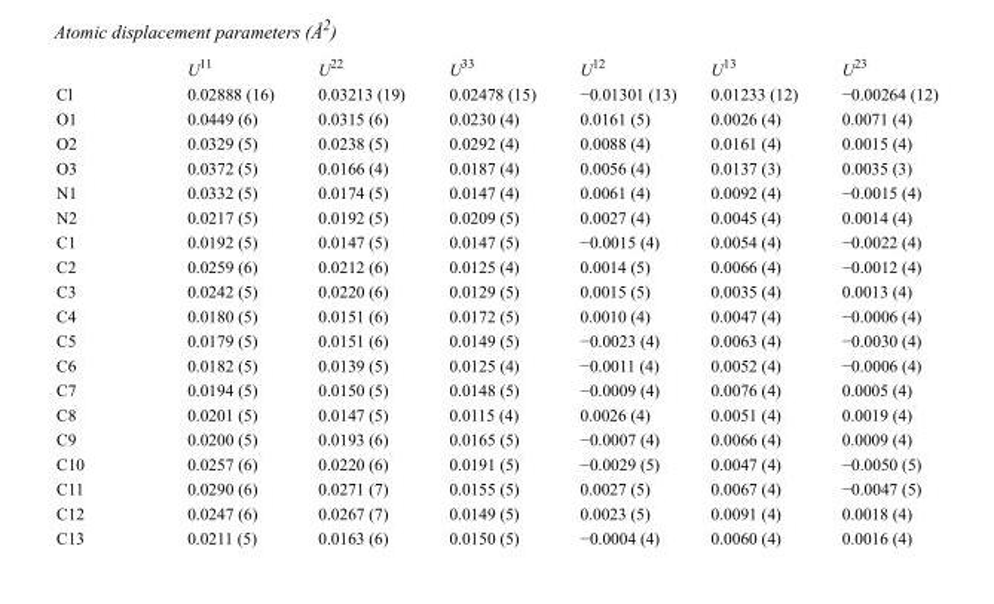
<table><thead><tr><td></td><td>U<sup>11</sup></td><td>U<sup>22</sup></td><td>U<sup>33</sup></td><td>U<sup>12</sup></td><td>U<sup>13</sup></td><td>U<sup>23</sup></td></tr></thead><tbody><tr><td>Cl</td><td>0.02888 (16)</td><td>0.03213 (19)</td><td>0.02478 (15)</td><td>−0.01301 (13)</td><td>0.01233 (12)</td><td>−0.00264 (12)</td></tr><tr><td>O1</td><td>0.0449 (6)</td><td>0.0315 (6)</td><td>0.0230 (4)</td><td>0.0161 (5)</td><td>0.0026 (4)</td><td>0.0071 (4)</td></tr><tr><td>O2</td><td>0.0329 (5)</td><td>0.0238 (5)</td><td>0.0292 (4)</td><td>0.0088 (4)</td><td>0.0161 (4)</td><td>0.0015 (4)</td></tr><tr><td>O3</td><td>0.0372 (5)</td><td>0.0166 (4)</td><td>0.0187 (4)</td><td>0.0056 (4)</td><td>0.0137 (3)</td><td>0.0035 (3)</td></tr><tr><td>N1</td><td>0.0332 (5)</td><td>0.0174 (5)</td><td>0.0147 (4)</td><td>0.0061 (4)</td><td>0.0092 (4)</td><td>−0.0015 (4)</td></tr><tr><td>N2</td><td>0.0217 (5)</td><td>0.0192 (5)</td><td>0.0209 (5)</td><td>0.0027 (4)</td><td>0.0045 (4)</td><td>0.0014 (4)</td></tr><tr><td>C1</td><td>0.0192 (5)</td><td>0.0147 (5)</td><td>0.0147 (5)</td><td>−0.0015 (4)</td><td>0.0054 (4)</td><td>−0.0022 (4)</td></tr><tr><td>C2</td><td>0.0259 (6)</td><td>0.0212 (6)</td><td>0.0125 (4)</td><td>0.0014 (5)</td><td>0.0066 (4)</td><td>−0.0012 (4)</td></tr><tr><td>C3</td><td>0.0242 (5)</td><td>0.0220 (6)</td><td>0.0129 (5)</td><td>0.0015 (5)</td><td>0.0035 (4)</td><td>0.0013 (4)</td></tr><tr><td>C4</td><td>0.0180 (5)</td><td>0.0151 (6)</td><td>0.0172 (5)</td><td>0.0010 (4)</td><td>0.0047 (4)</td><td>−0.0006 (4)</td></tr><tr><td>C5</td><td>0.0179 (5)</td><td>0.0151 (6)</td><td>0.0149 (5)</td><td>−0.0023 (4)</td><td>0.0063 (4)</td><td>−0.0030 (4)</td></tr><tr><td>C6</td><td>0.0182 (5)</td><td>0.0139 (5)</td><td>0.0125 (4)</td><td>−0.0011 (4)</td><td>0.0052 (4)</td><td>−0.0006 (4)</td></tr><tr><td>C7</td><td>0.0194 (5)</td><td>0.0150 (5)</td><td>0.0148 (5)</td><td>−0.0009 (4)</td><td>0.0076 (4)</td><td>0.0005 (4)</td></tr><tr><td>C8</td><td>0.0201 (5)</td><td>0.0147 (5)</td><td>0.0115 (4)</td><td>0.0026 (4)</td><td>0.0051 (4)</td><td>0.0019 (4)</td></tr><tr><td>C9</td><td>0.0200 (5)</td><td>0.0193 (6)</td><td>0.0165 (5)</td><td>−0.0007 (4)</td><td>0.0066 (4)</td><td>0.0009 (4)</td></tr><tr><td>C10</td><td>0.0257 (6)</td><td>0.0220 (6)</td><td>0.0191 (5)</td><td>−0.0029 (5)</td><td>0.0047 (4)</td><td>−0.0050 (5)</td></tr><tr><td>C11</td><td>0.0290 (6)</td><td>0.0271 (7)</td><td>0.0155 (5)</td><td>0.0027 (5)</td><td>0.0067 (4)</td><td>−0.0047 (5)</td></tr><tr><td>C12</td><td>0.0247 (6)</td><td>0.0267 (7)</td><td>0.0149 (5)</td><td>0.0023 (5)</td><td>0.0091 (4)</td><td>0.0018 (4)</td></tr><tr><td>C13</td><td>0.0211 (5)</td><td>0.0163 (6)</td><td>0.0150 (5)</td><td>−0.0004 (4)</td><td>0.0060 (4)</td><td>0.0016 (4)</td></tr></tbody></table>